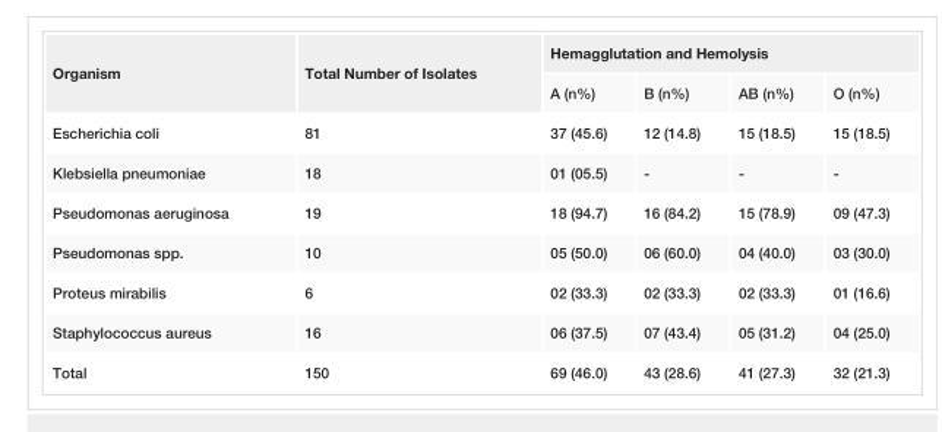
<table><tbody><tr><td rowspan="2">Organism</td><td rowspan="2">Total Number of Isolates</td><td colspan="4">Hemagglutation and Hemolysis</td></tr><tr><td>A (n%)</td><td>B (n%)</td><td>AB (n%)</td><td>O (n%)</td></tr><tr><td>Escherichia coli</td><td>81</td><td>37 (45.6)</td><td>12 (14.8)</td><td>15 (18.5)</td><td>15 (18.5)</td></tr><tr><td>Klebsiella pneumoniae</td><td>18</td><td>01 (05.5)</td><td>-</td><td>-</td><td>-</td></tr><tr><td>Pseudomonas aeruginosa</td><td>19</td><td>18 (94.7)</td><td>16 (84.2)</td><td>15 (78.9)</td><td>09 (47.3)</td></tr><tr><td>Pseudomonas spp.</td><td>10</td><td>05 (50.0)</td><td>06 (60.0)</td><td>04 (40.0)</td><td>03 (30.0)</td></tr><tr><td>Proteus mirabilis</td><td>6</td><td>02 (33.3)</td><td>02 (33.3)</td><td>02 (33.3)</td><td>01 (16.6)</td></tr><tr><td>Staphylococcus aureus</td><td>16</td><td>06 (37.5)</td><td>07 (43.4)</td><td>05 (31.2)</td><td>04 (25.0)</td></tr><tr><td>Total</td><td>150</td><td>69 (46.0)</td><td>43 (28.6)</td><td>41 (27.3)</td><td>32 (21.3)</td></tr></tbody></table>